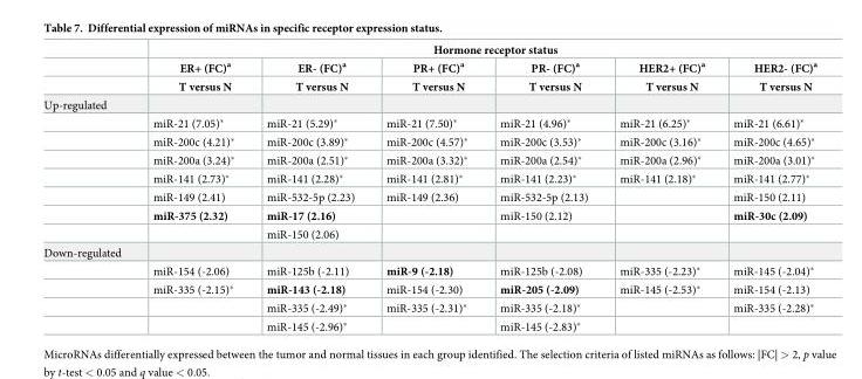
<table><thead><tr><td rowspan="3"></td><td colspan="6">Hormone receptor status</td></tr><tr><td rowspan="2">ER+ (FC)<sup>a</sup> T versus N</td><td rowspan="2">ER- (FC)<sup>a</sup> T versus N</td><td rowspan="2">PR+ (FC)<sup>a</sup> T versus N</td><td rowspan="2">PR- (FC)<sup>a</sup> T versus N</td><td rowspan="2">HER2+ (FC)<sup>a</sup> T versus N</td><td rowspan="2">HER2- (FC)<sup>a</sup> T versus N</td></tr><tr></tr></thead><tbody><tr><td colspan="7">Up-regulated</td></tr><tr><td></td><td>miR-21 (7.05)*</td><td>miR-21 (5.29)*</td><td>miR-21 (7.50)*</td><td>miR-21 (4.96)*</td><td>miR-21 (6.25)*</td><td>miR-21 (6.61)*</td></tr><tr><td></td><td>miR-200c (4.21)*</td><td>miR-200c (3.89)*</td><td>miR-200c (4.57)*</td><td>miR-200c (3.53)*</td><td>miR-200c (3.16)*</td><td>miR-200c (4.65)*</td></tr><tr><td></td><td>miR-200a (3.24)*</td><td>miR-200a (2.51)*</td><td>miR-200a (3.32)*</td><td>miR-200a (2.54)*</td><td>miR-200a (2.96)*</td><td>miR-200a (3.01)*</td></tr><tr><td></td><td>miR-141 (2.73)*</td><td>miR-141 (2.28)*</td><td>miR-141 (2.81)*</td><td>miR-141 (2.23)*</td><td>miR-141 (2.18)*</td><td>miR-141 (2.77)*</td></tr><tr><td></td><td>miR-149 (2.41)</td><td>miR-532-5p (2.23)</td><td>miR-149 (2.36)</td><td>miR-532-5p (2.13)</td><td></td><td>miR-150 (2.11)</td></tr><tr><td></td><td>miR-375 (2.32)</td><td>miR-17 (2.16)</td><td></td><td>miR-150 (2.12)</td><td></td><td>miR-30c (2.09)</td></tr><tr><td></td><td></td><td>miR-150 (2.06)</td><td></td><td></td><td></td><td></td></tr><tr><td colspan="7">Down-regulated</td></tr><tr><td></td><td>miR-154 (-2.06)</td><td>miR-125b (-2.11)</td><td>miR-9 (-2.18)</td><td>miR-125b (-2.08)</td><td>miR-335 (-2.23)*</td><td>miR-145 (-2.04)*</td></tr><tr><td></td><td>miR-335 (-2.15)*</td><td>miR-143 (-2.18)</td><td>miR-154 (-2.30)</td><td>miR-205 (-2.09)</td><td>miR-145 (-2.53)*</td><td>miR-154 (-2.13)</td></tr><tr><td></td><td></td><td>miR-335 (-2.49)*</td><td>miR-335 (-2.31)*</td><td>miR-335 (-2.18)*</td><td></td><td>miR-335 (-2.28)*</td></tr><tr><td></td><td></td><td>miR-145 (-2.96)*</td><td></td><td>miR-145 (-2.83)*</td><td></td><td></td></tr></tbody></table>